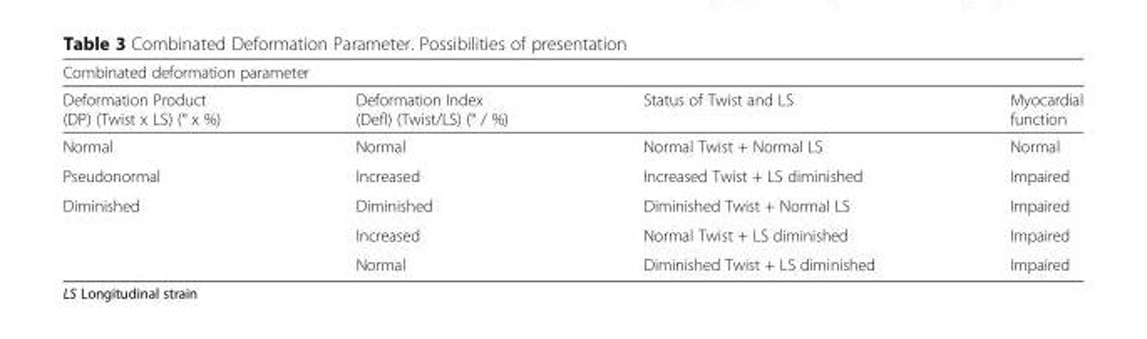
<table><thead><tr><td colspan="4">Combinated deformation parameter</td></tr><tr><td>Deformation Product (DP) (Twist x LS) (° x %)</td><td>Deformation Index (DefI) (Twist/LS) (° / %)</td><td>Status of Twist and LS</td><td>Myocardial function</td></tr></thead><tbody><tr><td>Normal</td><td>Normal</td><td>Normal Twist + Normal LS</td><td>Normal</td></tr><tr><td>Pseudonormal</td><td>Increased</td><td>Increased Twist + LS diminished</td><td>Impaired</td></tr><tr><td rowspan="3">Diminished</td><td>Diminished</td><td>Diminished Twist + Normal LS</td><td>Impaired</td></tr><tr><td>Increased</td><td>Normal Twist + LS diminished</td><td>Impaired</td></tr><tr><td>Normal</td><td>Diminished Twist + LS diminished</td><td>Impaired</td></tr></tbody></table>